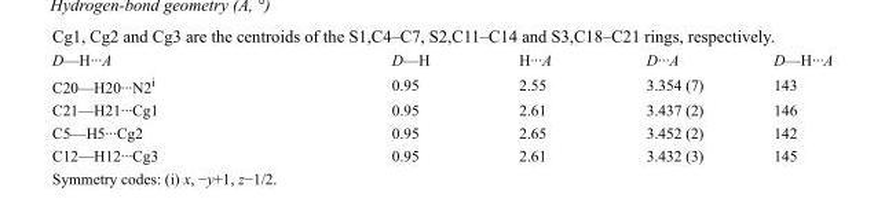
<table><tbody><tr><td>D—H···A</td><td>D—H</td><td>H···A</td><td>D···A</td><td>D—H···A</td></tr><tr><td>C20—H20···N2<sup>i</sup></td><td>0.95</td><td>2.55</td><td>3.354 (7)</td><td>143</td></tr><tr><td>C21—H21···Cg1</td><td>0.95</td><td>2.61</td><td>3.437 (2)</td><td>146</td></tr><tr><td>C5—H5···Cg2</td><td>0.95</td><td>2.65</td><td>3.452 (2)</td><td>142</td></tr><tr><td>C12—H12···Cg3</td><td>0.95</td><td>2.61</td><td>3.432 (3)</td><td>145</td></tr></tbody></table>